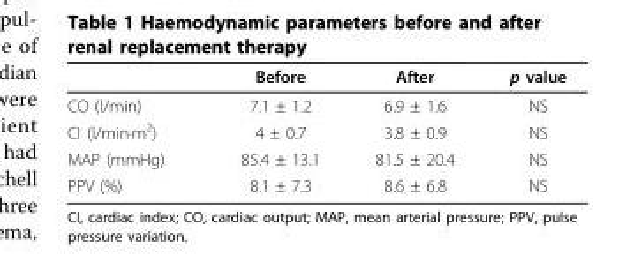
<table><thead><tr><td></td><td>Before</td><td>After</td><td>p value</td></tr></thead><tbody><tr><td>CO (l/min)</td><td>7.1 ± 1.2</td><td>6.9 ± 1.6</td><td>NS</td></tr><tr><td>CI (l/min·m<sup>2</sup>)</td><td>4 ± 0.7</td><td>3.8 ± 0.9</td><td>NS</td></tr><tr><td>MAP (mmHg)</td><td>85.4 ± 13.1</td><td>81.5 ± 20.4</td><td>NS</td></tr><tr><td>PPV (%)</td><td>8.1 ± 7.3</td><td>8.6 ± 6.8</td><td>NS</td></tr></tbody></table>